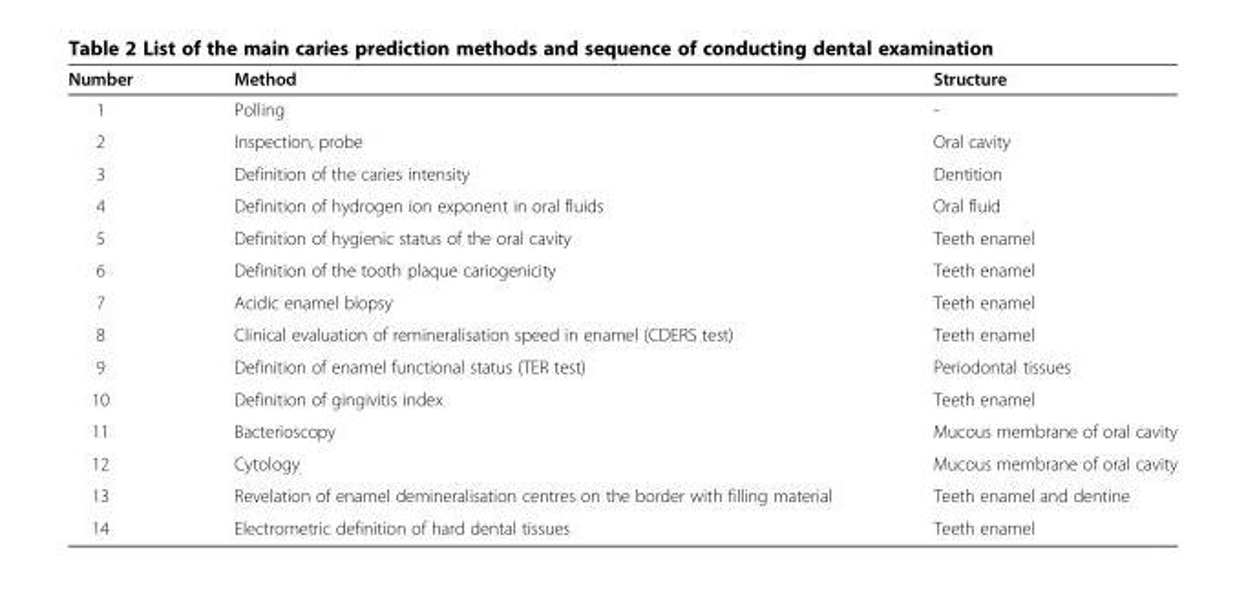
<table><thead><tr><td>Number</td><td>Method</td><td>Structure</td></tr></thead><tbody><tr><td>1</td><td>Polling</td><td>-</td></tr><tr><td>2</td><td>Inspection, probe</td><td>Oral cavity</td></tr><tr><td>3</td><td>Definition of the caries intensity</td><td>Dentition</td></tr><tr><td>4</td><td>Definition of hydrogen ion exponent in oral fluids</td><td>Oral fluid</td></tr><tr><td>5</td><td>Definition of hygienic status of the oral cavity</td><td>Teeth enamel</td></tr><tr><td>6</td><td>Definition of the tooth plaque cariogenicity</td><td>Teeth enamel</td></tr><tr><td>7</td><td>Acidic enamel biopsy</td><td>Teeth enamel</td></tr><tr><td>8</td><td>Clinical evaluation of remineralisation speed in enamel (CDERS test)</td><td>Teeth enamel</td></tr><tr><td>9</td><td>Definition of enamel functional status (ТER test)</td><td>Periodontal tissues</td></tr><tr><td>10</td><td>Definition of gingivitis index</td><td>Teeth enamel</td></tr><tr><td>11</td><td>Bacterioscopy</td><td>Mucous membrane of oral cavity</td></tr><tr><td>12</td><td>Cytology</td><td>Mucous membrane of oral cavity</td></tr><tr><td>13</td><td>Revelation of enamel demineralisation centres on the border with filling material</td><td>Teeth enamel and dentine</td></tr><tr><td>14</td><td>Electrometric definition of hard dental tissues</td><td>Teeth enamel</td></tr></tbody></table>